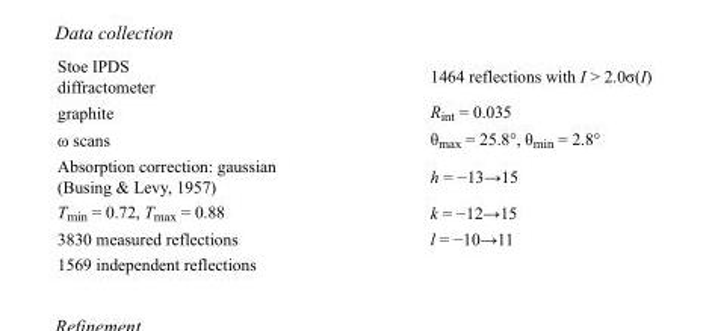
<table><tbody><tr><td>Stoe IPDS diffractometer</td><td>1464 reflections with I &gt; 2.0σ(I)</td></tr><tr><td>graphite</td><td>R<sub>int</sub> = 0.035</td></tr><tr><td>ω scans</td><td>θ<sub>max</sub> = 25.8°, θ<sub>min</sub> = 2.8°</td></tr><tr><td>Absorption correction: gaussian (Busing &amp; Levy, 1957)</td><td>h = −13→15</td></tr><tr><td>T<sub>min</sub> = 0.72, T<sub>max</sub> = 0.88</td><td>k = −12→15</td></tr><tr><td>3830 measured reflections</td><td>l = −10→11</td></tr><tr><td>1569 independent reflections</td><td></td></tr></tbody></table>